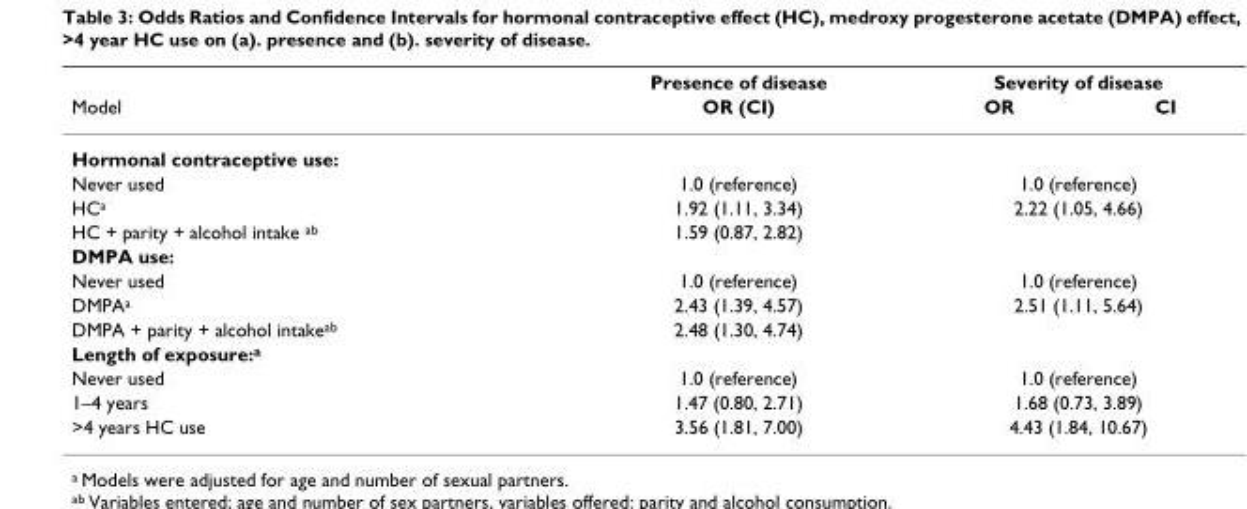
<table><thead><tr><td rowspan="2">Model</td><td rowspan="2">Presence of disease OR (CI)</td><td colspan="2">Severity of disease</td></tr><tr><td>OR</td><td>CI</td></tr></thead><tbody><tr><td colspan="4">Hormonal contraceptive use:</td></tr><tr><td>Never used</td><td>1.0 (reference)</td><td colspan="2">1.0 (reference)</td></tr><tr><td>HC<sup>a</sup></td><td>1.92 (1.11, 3.34)</td><td colspan="2">2.22 (1.05, 4.66)</td></tr><tr><td>HC + parity + alcohol intake <sup>ab</sup></td><td>1.59 (0.87, 2.82)</td><td></td><td></td></tr><tr><td colspan="4">DMPA use:</td></tr><tr><td>Never used</td><td>1.0 (reference)</td><td colspan="2">1.0 (reference)</td></tr><tr><td>DMPA<sup>a</sup></td><td>2.43 (1.39, 4.57)</td><td colspan="2">2.51 (1.11, 5.64)</td></tr><tr><td>DMPA + parity + alcohol intake<sup>ab</sup></td><td>2.48 (1.30, 4.74)</td><td></td><td></td></tr><tr><td colspan="4">Length of exposure:<sup>a</sup></td></tr><tr><td>Never used</td><td>1.0 (reference)</td><td colspan="2">1.0 (reference)</td></tr><tr><td>1–4 years</td><td>1.47 (0.80, 2.71)</td><td colspan="2">1.68 (0.73, 3.89)</td></tr><tr><td>&gt;4 years HC use</td><td>3.56 (1.81, 7.00)</td><td colspan="2">4.43 (1.84, 10.67)</td></tr></tbody></table>